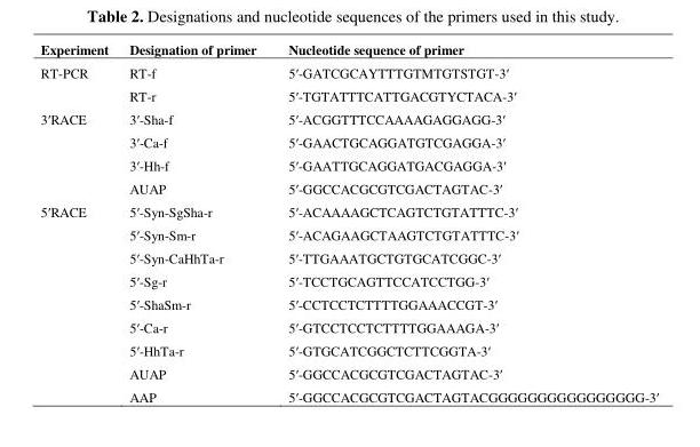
<table><thead><tr><td>Experiment</td><td>Designation of primer</td><td>Nucleotide sequence of primer</td></tr></thead><tbody><tr><td rowspan="2">RT-PCR</td><td>RT-f</td><td>5′-GATCGCAYTTTGTMTGTSTGT-3′</td></tr><tr><td>RT-r</td><td>5′-TGTATTTCATTGACGTYCTACA-3′</td></tr><tr><td rowspan="4">3′RACE</td><td>3′-Sha-f</td><td>5′-ACGGTTTCCAAAAGAGGAGG-3′</td></tr><tr><td>3′-Ca-f</td><td>5′-GAACTGCAGGATGTCGAGGA-3′</td></tr><tr><td>3′-Hh-f</td><td>5′-GAATTGCAGGATGACGAGGA-3′</td></tr><tr><td>AUAP</td><td>5′-GGCCACGCGTCGACTAGTAC-3′</td></tr><tr><td rowspan="9">5′RACE</td><td>5′-Syn-SgSha-r</td><td>5′-ACAAAAGCTCAGTCTGTATTTC-3′</td></tr><tr><td>5′-Syn-Sm-r</td><td>5′-ACAGAAGCTAAGTCTGTATTTC-3′</td></tr><tr><td>5′-Syn-CaHhTa-r</td><td>5′-TTGAAATGCTGTGCATCGGC-3′</td></tr><tr><td>5′-Sg-r</td><td>5′-TCCTGCAGTTCCATCCTGG-3′</td></tr><tr><td>5′-ShaSm-r</td><td>5′-CCTCCTCTTTTGGAAACCGT-3′</td></tr><tr><td>5′-Ca-r</td><td>5′-GTCCTCCTCTTTTGGAAAGA-3′</td></tr><tr><td>5′-HhTa-r</td><td>5′-GTGCATCGGCTCTTCGGTA-3′</td></tr><tr><td>AUAP</td><td>5′-GGCCACGCGTCGACTAGTAC-3′</td></tr><tr><td>AAP</td><td>5′-GGCCACGCGTCGACTAGTACGGGGGGGGGGGGGGGG-3′</td></tr></tbody></table>